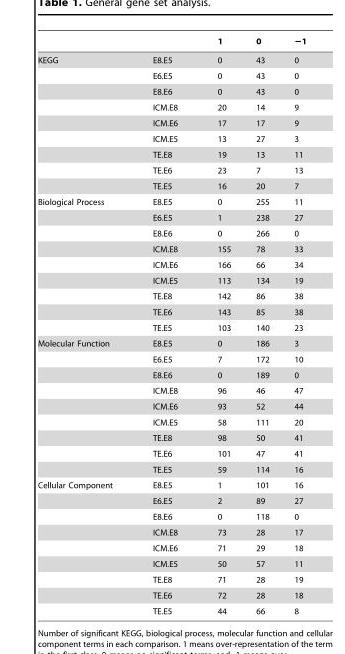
<table><thead><tr><td></td><td></td><td>1</td><td>0</td><td>−1</td></tr></thead><tbody><tr><td rowspan="9">KEGG</td><td>E8.E5</td><td>0</td><td>43</td><td>0</td></tr><tr><td>E6.E5</td><td>0</td><td>43</td><td>0</td></tr><tr><td>E8.E6</td><td>0</td><td>43</td><td>0</td></tr><tr><td>ICM.E8</td><td>20</td><td>14</td><td>9</td></tr><tr><td>ICM.E6</td><td>17</td><td>17</td><td>9</td></tr><tr><td>ICM.E5</td><td>13</td><td>27</td><td>3</td></tr><tr><td>TE.E8</td><td>19</td><td>13</td><td>11</td></tr><tr><td>TE.E6</td><td>23</td><td>7</td><td>13</td></tr><tr><td>TE.E5</td><td>16</td><td>20</td><td>7</td></tr><tr><td rowspan="9">Biological Process</td><td>E8.E5</td><td>0</td><td>255</td><td>11</td></tr><tr><td>E6.E5</td><td>1</td><td>238</td><td>27</td></tr><tr><td>E8.E6</td><td>0</td><td>266</td><td>0</td></tr><tr><td>ICM.E8</td><td>155</td><td>78</td><td>33</td></tr><tr><td>ICM.E6</td><td>166</td><td>66</td><td>34</td></tr><tr><td>ICM.E5</td><td>113</td><td>134</td><td>19</td></tr><tr><td>TE.E8</td><td>142</td><td>86</td><td>38</td></tr><tr><td>TE.E6</td><td>143</td><td>85</td><td>38</td></tr><tr><td>TE.E5</td><td>103</td><td>140</td><td>23</td></tr><tr><td rowspan="9">Molecular Function</td><td>E8.E5</td><td>0</td><td>186</td><td>3</td></tr><tr><td>E6.E5</td><td>7</td><td>172</td><td>10</td></tr><tr><td>E8.E6</td><td>0</td><td>189</td><td>0</td></tr><tr><td>ICM.E8</td><td>96</td><td>46</td><td>47</td></tr><tr><td>ICM.E6</td><td>93</td><td>52</td><td>44</td></tr><tr><td>ICM.E5</td><td>58</td><td>111</td><td>20</td></tr><tr><td>TE.E8</td><td>98</td><td>50</td><td>41</td></tr><tr><td>TE.E6</td><td>101</td><td>47</td><td>41</td></tr><tr><td>TE.E5</td><td>59</td><td>114</td><td>16</td></tr><tr><td rowspan="9">Cellular Component</td><td>E8.E5</td><td>1</td><td>101</td><td>16</td></tr><tr><td>E6.E5</td><td>2</td><td>89</td><td>27</td></tr><tr><td>E8.E6</td><td>0</td><td>118</td><td>0</td></tr><tr><td>ICM.E8</td><td>73</td><td>28</td><td>17</td></tr><tr><td>ICM.E6</td><td>71</td><td>29</td><td>18</td></tr><tr><td>ICM.E5</td><td>50</td><td>57</td><td>11</td></tr><tr><td>TE.E8</td><td>71</td><td>28</td><td>19</td></tr><tr><td>TE.E6</td><td>72</td><td>28</td><td>18</td></tr><tr><td>TE.E5</td><td>44</td><td>66</td><td>8</td></tr></tbody></table>